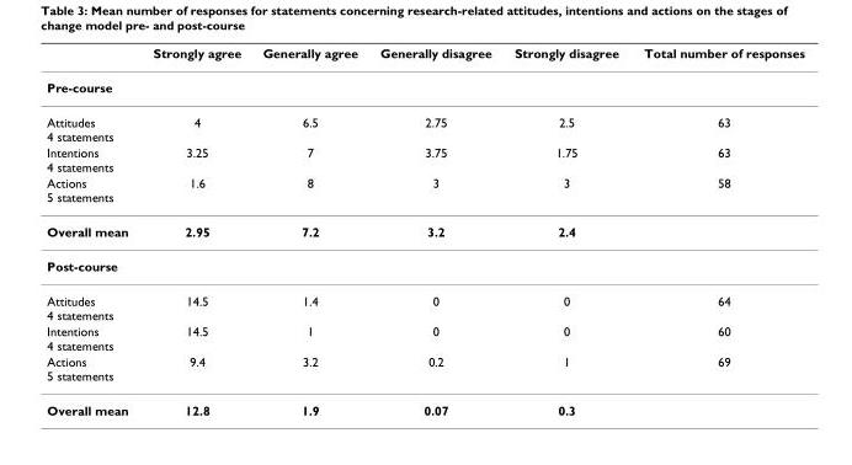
<table><thead><tr><td></td><td>Strongly agree</td><td>Generally agree</td><td>Generally disagree</td><td>Strongly disagree</td><td>Total number of responses</td></tr></thead><tbody><tr><td colspan="6">Pre-course</td></tr><tr><td>Attitudes 4 statements</td><td>4</td><td>6.5</td><td>2.75</td><td>2.5</td><td>63</td></tr><tr><td>Intentions 4 statements</td><td>3.25</td><td>7</td><td>3.75</td><td>1.75</td><td>63</td></tr><tr><td>Actions 5 statements</td><td>1.6</td><td>8</td><td>3</td><td>3</td><td>58</td></tr><tr><td>Overall mean</td><td>2.95</td><td>7.2</td><td>3.2</td><td>2.4</td><td></td></tr><tr><td colspan="6">Post-course</td></tr><tr><td>Attitudes 4 statements</td><td>14.5</td><td>1.4</td><td>0</td><td>0</td><td>64</td></tr><tr><td>Intentions 4 statements</td><td>14.5</td><td>1</td><td>0</td><td>0</td><td>60</td></tr><tr><td>Actions 5 statements</td><td>9.4</td><td>3.2</td><td>0.2</td><td>1</td><td>69</td></tr><tr><td>Overall mean</td><td>12.8</td><td>1.9</td><td>0.07</td><td>0.3</td><td></td></tr></tbody></table>